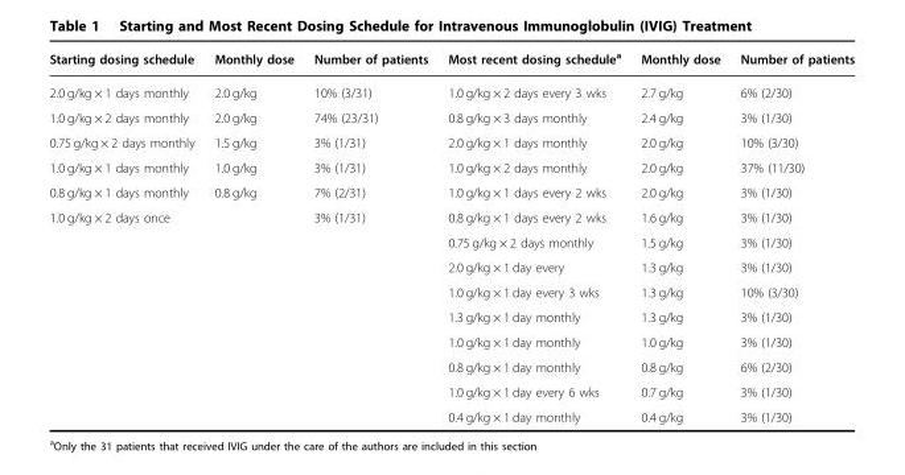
<table><thead><tr><td>Starting dosing schedule</td><td>Monthly dose</td><td>Number of patients</td><td>Most recent dosing schedule<sup>a</sup></td><td>Monthly dose</td><td>Number of patients</td></tr></thead><tbody><tr><td>2.0 g/kg × 1 days monthly</td><td>2.0 g/kg</td><td>10% (3/31)</td><td>1.0 g/kg × 2 days every 3 wks</td><td>2.7 g/kg</td><td>6% (2/30)</td></tr><tr><td>1.0 g/kg × 2 days monthly</td><td>2.0 g/kg</td><td>74% (23/31)</td><td>0.8 g/kg × 3 days monthly</td><td>2.4 g/kg</td><td>3% (1/30)</td></tr><tr><td>0.75 g/kg × 2 days monthly</td><td>1.5 g/kg</td><td>3% (1/31)</td><td>2.0 g/kg × 1 days monthly</td><td>2.0 g/kg</td><td>10% (3/30)</td></tr><tr><td>1.0 g/kg × 1 days monthly</td><td>1.0 g/kg</td><td>3% (1/31)</td><td>1.0 g/kg × 2 days monthly</td><td>2.0 g/kg</td><td>37% (11/30)</td></tr><tr><td>0.8 g/kg × 1 days monthly</td><td>0.8 g/kg</td><td>7% (2/31)</td><td>1.0 g/kg × 1 days every 2 wks</td><td>2.0 g/kg</td><td>3% (1/30)</td></tr><tr><td rowspan="9">1.0 g/kg × 2 days once</td><td></td><td>3% (1/31)</td><td>0.8 g/kg × 1 days every 2 wks</td><td>1.6 g/kg</td><td>3% (1/30)</td></tr><tr><td></td><td></td><td>0.75 g/kg × 2 days monthly</td><td>1.5 g/kg</td><td>3% (1/30)</td></tr><tr><td></td><td></td><td>2.0 g/kg × 1 day every</td><td>1.3 g/kg</td><td>3% (1/30)</td></tr><tr><td></td><td></td><td>1.0 g/kg × 1 day every 3 wks</td><td>1.3 g/kg</td><td>10% (3/30)</td></tr><tr><td></td><td></td><td>1.3 g/kg × 1 day monthly</td><td>1.3 g/kg</td><td>3% (1/30)</td></tr><tr><td></td><td></td><td>1.0 g/kg × 1 day monthly</td><td>1.0 g/kg</td><td>3% (1/30)</td></tr><tr><td></td><td></td><td>0.8 g/kg × 1 day monthly</td><td>0.8 g/kg</td><td>6% (2/30)</td></tr><tr><td></td><td></td><td>1.0 g/kg × 1 day every 6 wks</td><td>0.7 g/kg</td><td>3% (1/30)</td></tr><tr><td></td><td></td><td>0.4 g/kg × 1 day monthly</td><td>0.4 g/kg</td><td>3% (1/30)</td></tr></tbody></table>